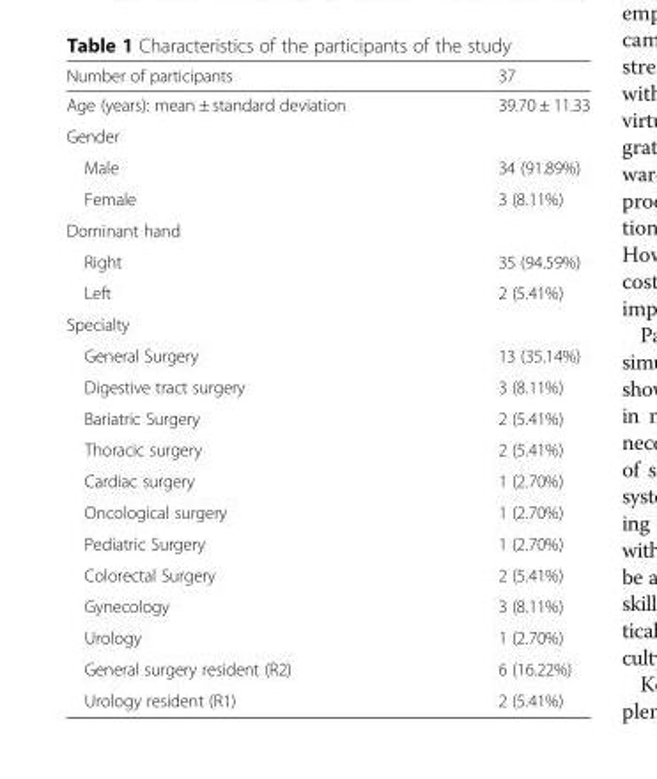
<table><thead><tr><td>Number of participants</td><td>37</td></tr></thead><tbody><tr><td>Age (years): mean ± standard deviation</td><td>39.70 ± 11.33</td></tr><tr><td colspan="2">Gender</td></tr><tr><td>Male</td><td>34 (91.89%)</td></tr><tr><td>Female</td><td>3 (8.11%)</td></tr><tr><td colspan="2">Dominant hand</td></tr><tr><td>Right</td><td>35 (94.59%)</td></tr><tr><td>Left</td><td>2 (5.41%)</td></tr><tr><td colspan="2">Specialty</td></tr><tr><td>General Surgery</td><td>13 (35.14%)</td></tr><tr><td>Digestive tract surgery</td><td>3 (8.11%)</td></tr><tr><td>Bariatric Surgery</td><td>2 (5.41%)</td></tr><tr><td>Thoracic surgery</td><td>2 (5.41%)</td></tr><tr><td>Cardiac surgery</td><td>1 (2.70%)</td></tr><tr><td>Oncological surgery</td><td>1 (2.70%)</td></tr><tr><td>Pediatric Surgery</td><td>1 (2.70%)</td></tr><tr><td>Colorectal Surgery</td><td>2 (5.41%)</td></tr><tr><td>Gynecology</td><td>3 (8.11%)</td></tr><tr><td>Urology</td><td>1 (2.70%)</td></tr><tr><td>General surgery resident (R2)</td><td>6 (16.22%)</td></tr><tr><td>Urology resident (R1)</td><td>2 (5.41%)</td></tr></tbody></table>